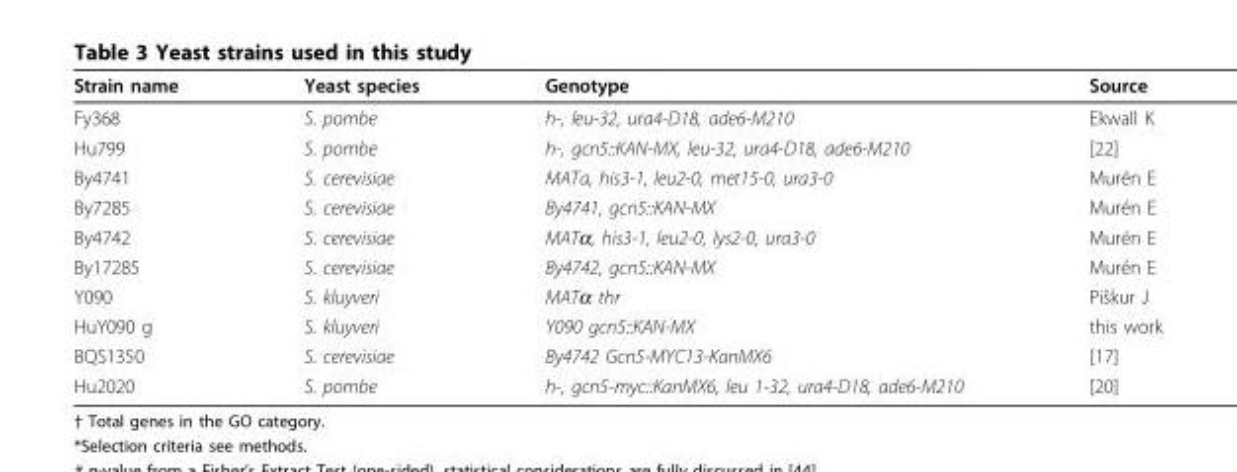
<table><thead><tr><td>Strain name</td><td>Yeast species</td><td>Genotype</td><td>Source</td></tr></thead><tbody><tr><td>Fy368</td><td>S. pombe</td><td>h-, leu-32, ura4-D18, ade6-M210</td><td>Ekwall K</td></tr><tr><td>Hu799</td><td>S. pombe</td><td>h-, gcn5::KAN-MX, leu-32, ura4-D18, ade6-M210</td><td>[22]</td></tr><tr><td>By4741</td><td>S. cerevisiae</td><td>MATa, his3-1, leu2-0, met15-0, ura3-0</td><td>Murén E</td></tr><tr><td>By7285</td><td>S. cerevisiae</td><td>By4741, gcn5::KAN-MX</td><td>Murén E</td></tr><tr><td>By4742</td><td>S. cerevisiae</td><td>MATα, his3-1, leu2-0, lys2-0, ura3-0</td><td>Murén E</td></tr><tr><td>By17285</td><td>S. cerevisiae</td><td>By4742, gcn5::KAN-MX</td><td>Murén E</td></tr><tr><td>Y090</td><td>S. kluyveri</td><td>MATα thr</td><td>Piškur J</td></tr><tr><td>HuY090 g</td><td>S. kluyveri</td><td>Y090 gcn5::KAN-MX</td><td>this work</td></tr><tr><td>BQS1350</td><td>S. cerevisiae</td><td>By4742 Gcn5-MYC13-KanMX6</td><td>[17]</td></tr><tr><td>Hu2020</td><td>S. pombe</td><td>h-, gcn5-myc::KanMX6, leu 1-32, ura4-D18, ade6-M210</td><td>[20]</td></tr></tbody></table>